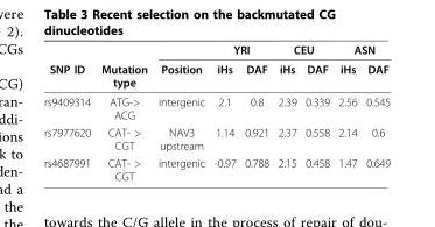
<table><thead><tr><td rowspan="2">SNP ID</td><td rowspan="2">Mutation type</td><td rowspan="2">Position</td><td colspan="2">YRI</td><td colspan="2">CEU</td><td colspan="2">ASN</td></tr><tr><td>iHs</td><td>DAF</td><td>iHs</td><td>DAF</td><td>iHs</td><td>DAF</td></tr></thead><tbody><tr><td>rs9409314</td><td>ATG-&gt; ACG</td><td>intergenic</td><td>2.1</td><td>0.8</td><td>2.39</td><td>0.339</td><td>2.56</td><td>0.545</td></tr><tr><td>rs7977620</td><td>CAT- &gt; CGT</td><td>NAV3 upstream</td><td>1.14</td><td>0.921</td><td>2.37</td><td>0.558</td><td>2.14</td><td>0.6</td></tr><tr><td>rs4687991</td><td>CAT- &gt; CGT</td><td>intergenic</td><td>-0.97</td><td>0.788</td><td>2.15</td><td>0.458</td><td>1.47</td><td>0.649</td></tr></tbody></table>